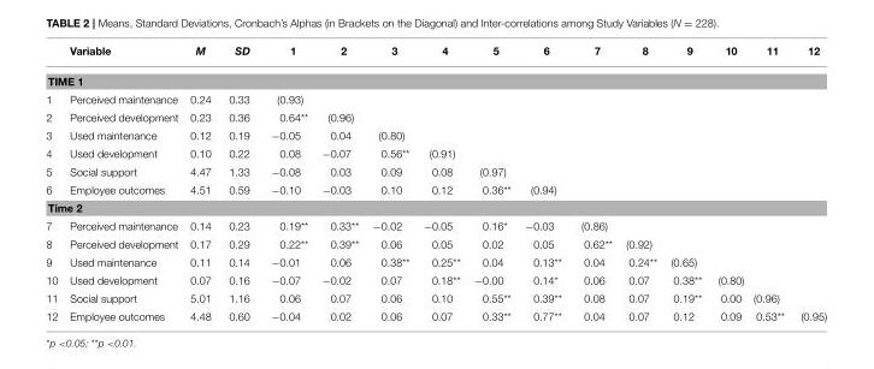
<table><thead><tr><td></td><td>Variable</td><td>M</td><td>SD</td><td>1</td><td>2</td><td>3</td><td>4</td><td>5</td><td>6</td><td>7</td><td>8</td><td>9</td><td>10</td><td>11</td><td>12</td></tr></thead><tbody><tr><td colspan="16">TIME 1</td></tr><tr><td>1</td><td>Perceived maintenance</td><td>0.24</td><td>0.33</td><td>(0.93)</td><td></td><td></td><td></td><td></td><td></td><td></td><td></td><td></td><td></td><td></td><td></td></tr><tr><td>2</td><td>Perceived development</td><td>0.23</td><td>0.36</td><td>0.64**</td><td>(0.96)</td><td></td><td></td><td></td><td></td><td></td><td></td><td></td><td></td><td></td><td></td></tr><tr><td>3</td><td>Used maintenance</td><td>0.12</td><td>0.19</td><td>−0.05</td><td>0.04</td><td>(0.80)</td><td></td><td></td><td></td><td></td><td></td><td></td><td></td><td></td><td></td></tr><tr><td>4</td><td>Used development</td><td>0.10</td><td>0.22</td><td>0.08</td><td>−0.07</td><td>0.56**</td><td>(0.91)</td><td></td><td></td><td></td><td></td><td></td><td></td><td></td><td></td></tr><tr><td>5</td><td>Social support</td><td>4.47</td><td>1.33</td><td>−0.08</td><td>0.03</td><td>0.09</td><td>0.08</td><td>(0.97)</td><td></td><td></td><td></td><td></td><td></td><td></td><td></td></tr><tr><td>6</td><td>Employee outcomes</td><td>4.51</td><td>0.59</td><td>−0.10</td><td>−0.03</td><td>0.10</td><td>0.12</td><td>0.36**</td><td>(0.94)</td><td></td><td></td><td></td><td></td><td></td><td></td></tr><tr><td colspan="16">Time 2</td></tr><tr><td>7</td><td>Perceived maintenance</td><td>0.14</td><td>0.23</td><td>0.19**</td><td>0.33**</td><td>−0.02</td><td>−0.05</td><td>0.16*</td><td>−0.03</td><td>(0.86)</td><td></td><td></td><td></td><td></td><td></td></tr><tr><td>8</td><td>Perceived development</td><td>0.17</td><td>0.29</td><td>0.22**</td><td>0.39**</td><td>0.06</td><td>0.05</td><td>0.02</td><td>0.05</td><td>0.62**</td><td>(0.92)</td><td></td><td></td><td></td><td></td></tr><tr><td>9</td><td>Used maintenance</td><td>0.11</td><td>0.14</td><td>−0.01</td><td>0.06</td><td>0.38**</td><td>0.25**</td><td>0.04</td><td>0.13**</td><td>0.04</td><td>0.24**</td><td>(0.65)</td><td></td><td></td><td></td></tr><tr><td>10</td><td>Used development</td><td>0.07</td><td>0.16</td><td>−0.07</td><td>−0.02</td><td>0.07</td><td>0.18**</td><td>−0.00</td><td>0.14*</td><td>0.06</td><td>0.07</td><td>0.38**</td><td>(0.80)</td><td></td><td></td></tr><tr><td>11</td><td>Social support</td><td>5.01</td><td>1.16</td><td>0.06</td><td>0.07</td><td>0.06</td><td>0.10</td><td>0.55**</td><td>0.39**</td><td>0.08</td><td>0.07</td><td>0.19**</td><td>0.00</td><td>(0.96)</td><td></td></tr><tr><td>12</td><td>Employee outcomes</td><td>4.48</td><td>0.60</td><td>−0.04</td><td>0.02</td><td>0.06</td><td>0.07</td><td>0.33**</td><td>0.77**</td><td>0.04</td><td>0.07</td><td>0.12</td><td>0.09</td><td>0.53**</td><td>(0.95)</td></tr></tbody></table>